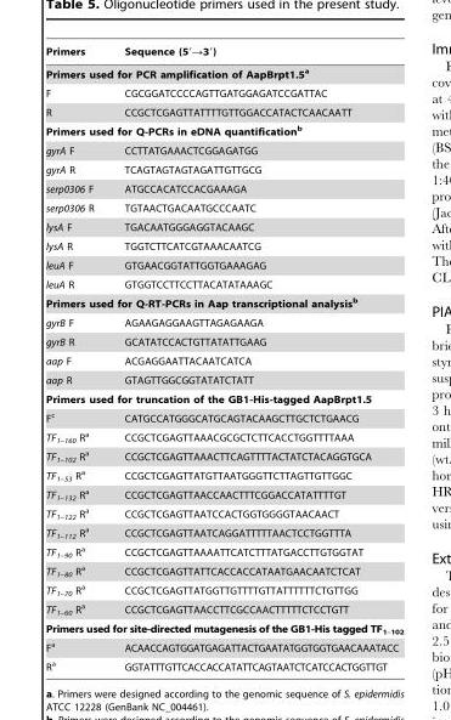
<table><thead><tr><td>Primers</td><td>Sequence (5′→3′)</td></tr></thead><tbody><tr><td colspan="2">Primers used for PCR amplification of AapBrpt1.5<sup>a</sup></td></tr><tr><td>F</td><td>CGCGGATCCCCAGTTGATGGAGATCCGATTAC</td></tr><tr><td>R</td><td>CCGCTCGAGTTATTTTGTTGGACCATACTCAACAATT</td></tr><tr><td colspan="2">Primers used for Q-PCRs in eDNA quantification<sup>b</sup></td></tr><tr><td>gyrA F</td><td>CCTTATGAAACTCGGAGATGG</td></tr><tr><td>gyrA R</td><td>TCAGTAGTAGTAGATTGTTGCG</td></tr><tr><td>serp0306 F</td><td>ATGCCACATCCACGAAAGA</td></tr><tr><td>serp0306 R</td><td>TGTAACTGACAATGCCCAATC</td></tr><tr><td>lysA F</td><td>TGACAATGGGAGGTACAAGC</td></tr><tr><td>lysA R</td><td>TGGTCTTCATCGTAAACAATCG</td></tr><tr><td>leuA F</td><td>GTGAACGGTATTGGTGAAAGAG</td></tr><tr><td>leuA R</td><td>GTGGTCCTTCCTTACATATAAAGC</td></tr><tr><td colspan="2">Primers used for Q-RT-PCRs in Aap transcriptional analysis<sup>b</sup></td></tr><tr><td>gyrB F</td><td>AGAAGAGGAAGTTAGAGAAGA</td></tr><tr><td>gyrB R</td><td>GCATATCCACTGTTATATTGAAG</td></tr><tr><td>aap F</td><td>ACGAGGAATTACAATCATCA</td></tr><tr><td>aap R</td><td>GTAGTTGGCGGTATATCTATT</td></tr><tr><td colspan="2">Primers used for truncation of the GB1-His-tagged AapBrpt1.5</td></tr><tr><td>F<sup>c</sup></td><td>CATGCCATGGGCATGCAGTACAAGCTTGCTCTGAACG</td></tr><tr><td>TF<sub>1–160</sub> R<sup>a</sup></td><td>CCGCTCGAGTTAAACGCGCTCTTCACCTGGTTTTAAA</td></tr><tr><td>TF<sub>1–102</sub> R<sup>a</sup></td><td>CCGCTCGAGTTAAACTTCAGTTTTACTATCTACAGGTGCA</td></tr><tr><td>TF<sub>1–53</sub> R<sup>a</sup></td><td>CCGCTCGAGTTATGTTAATGGGTTCTTAGTTGTTGGC</td></tr><tr><td>TF<sub>1–132</sub> R<sup>a</sup></td><td>CCGCTCGAGTTAACCAACTTTCGGACCATATTTTGT</td></tr><tr><td>TF<sub>1–122</sub> R<sup>a</sup></td><td>CCGCTCGAGTTAATCCACTGGTGGGGTAACAACT</td></tr><tr><td>TF<sub>1–112</sub> R<sup>a</sup></td><td>CCGCTCGAGTTAATCAGGATTTTTAACTCCTGGTTTA</td></tr><tr><td>TF<sub>1–90</sub> R<sup>a</sup></td><td>CCGCTCGAGTTAAAATTCATCTTTATGACCTTGTGGTAT</td></tr><tr><td>TF<sub>1–80</sub> R<sup>a</sup></td><td>CCGCTCGAGTTATTCACCACCATAATGAACAATCTCAT</td></tr><tr><td>TF<sub>1–70</sub> R<sup>a</sup></td><td>CCGCTCGAGTTATGGTTGTTTTGTTATTTTTTCTGTTGG</td></tr><tr><td>TF<sub>1–60</sub> R<sup>a</sup></td><td>CCGCTCGAGTTAACCTTCGCCAACTTTTTCTCCTGTT</td></tr><tr><td colspan="2">Primers used for site-directed mutagenesis of the GB1-His tagged TF<sub>1–102</sub></td></tr><tr><td>F<sup>a</sup></td><td>ACAACCAGTGGATGAGATTACTGAATATGGTGGTGAACAAATACC</td></tr><tr><td>R<sup>a</sup></td><td>GGTATTTGTTCACCACCATATTCAGTAATCTCATCCACTGGTTGT</td></tr></tbody></table>